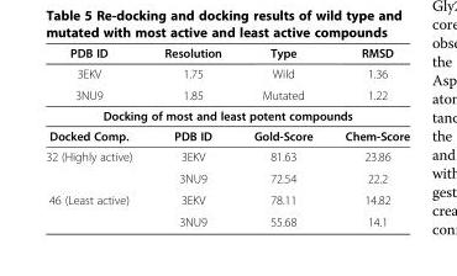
<table><thead><tr><td>PDB ID</td><td>Resolution</td><td>Type</td><td>RMSD</td></tr></thead><tbody><tr><td>3EKV</td><td>1.75</td><td>Wild</td><td>1.36</td></tr><tr><td>3NU9</td><td>1.85</td><td>Mutated</td><td>1.22</td></tr><tr><td colspan="4">Docking of most and least potent compounds</td></tr><tr><td>Docked Comp.</td><td>PDB ID</td><td>Gold-Score</td><td>Chem-Score</td></tr><tr><td rowspan="2">32 (Highly active)</td><td>3EKV</td><td>81.63</td><td>23.86</td></tr><tr><td>3NU9</td><td>72.54</td><td>22.2</td></tr><tr><td rowspan="2">46 (Least active)</td><td>3EKV</td><td>78.11</td><td>14.82</td></tr><tr><td>3NU9</td><td>55.68</td><td>14.1</td></tr></tbody></table>